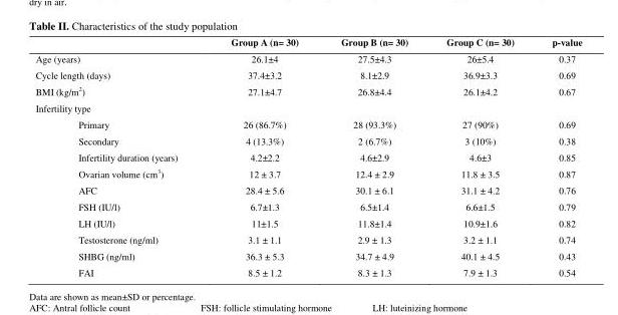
<table><thead><tr><td></td><td>Group A (n= 30)</td><td>Group B (n= 30)</td><td>Group C (n= 30)</td><td>p-value</td></tr></thead><tbody><tr><td>Age (years)</td><td>26.1±4</td><td>27.5±4.3</td><td>26±5.4</td><td>0.37</td></tr><tr><td>Cycle length (days)</td><td>37.4±3.2</td><td>8.1±2.9</td><td>36.9±3.3</td><td>0.69</td></tr><tr><td>BMI (kg/m<sup>2</sup>)</td><td>27.1±4.7</td><td>26.8±4.4</td><td>26.1±4.2</td><td>0.67</td></tr><tr><td colspan="5">Infertility type</td></tr><tr><td>Primary</td><td>26 (86.7%)</td><td>28 (93.3%)</td><td>27 (90%)</td><td>0.69</td></tr><tr><td>Secondary</td><td>4 (13.3%)</td><td>2 (6.7%)</td><td>3 (10%)</td><td>0.38</td></tr><tr><td>Infertility duration (years)</td><td>4.2±2.2</td><td>4.6±2.9</td><td>4.6±3</td><td>0.85</td></tr><tr><td>Ovarian volume (cm<sup>3</sup>)</td><td>12 ± 3.7</td><td>12.4 ± 2.9</td><td>11.8 ± 3.5</td><td>0.87</td></tr><tr><td>AFC</td><td>28.4 ± 5.6</td><td>30.1 ± 6.1</td><td>31.1 ± 4.2</td><td>0.76</td></tr><tr><td>FSH (IU/l)</td><td>6.7±1.3</td><td>6.5±1.4</td><td>6.6±1.5</td><td>0.79</td></tr><tr><td>LH (IU/l)</td><td>11±1.5</td><td>11.8±1.4</td><td>10.9±1.6</td><td>0.82</td></tr><tr><td>Testosterone (ng/ml)</td><td>3.1 ± 1.1</td><td>2.9 ± 1.3</td><td>3.2 ± 1.1</td><td>0.74</td></tr><tr><td>SHBG (ng/ml)</td><td>36.3 ± 5.3</td><td>34.7 ± 4.9</td><td>40.1 ± 4.5</td><td>0.43</td></tr><tr><td>FAI</td><td>8.5 ± 1.2</td><td>8.3 ± 1.3</td><td>7.9 ± 1.3</td><td>0.54</td></tr></tbody></table>